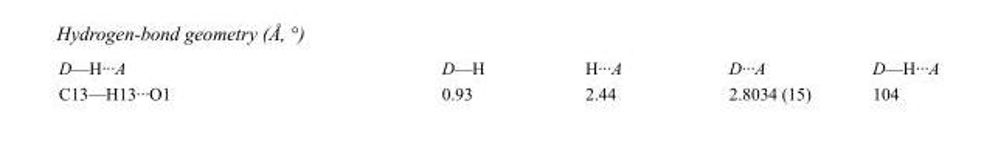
<table><tbody><tr><td>D—H···A</td><td>D—H</td><td>H···A</td><td>D···A</td><td>D—H···A</td></tr><tr><td>C13—H13···O1</td><td>0.93</td><td>2.44</td><td>2.8034 (15)</td><td>104</td></tr></tbody></table>